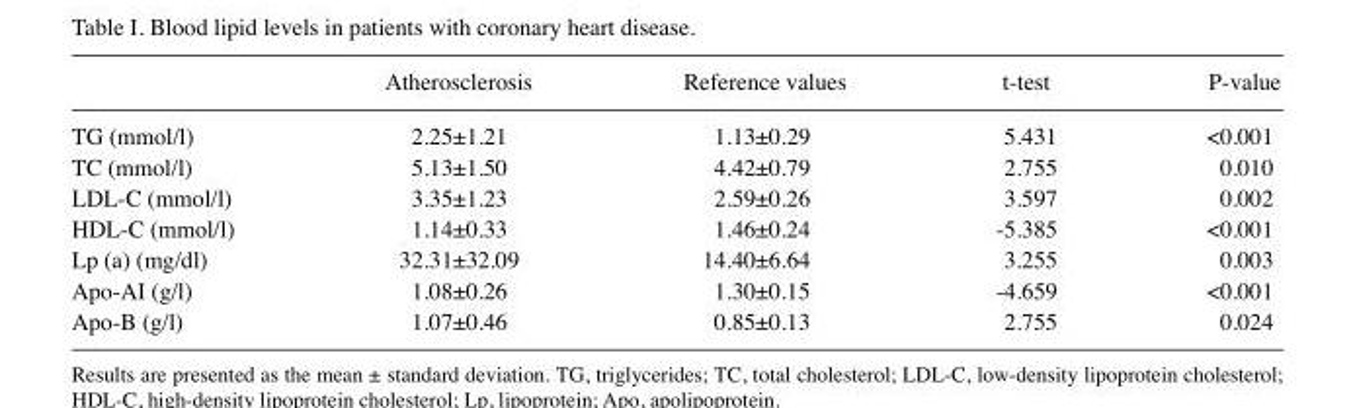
<table><thead><tr><td></td><td>Atherosclerosis</td><td>Reference values</td><td>t-test</td><td>P-value</td></tr></thead><tbody><tr><td>TG (mmol/l)</td><td>2.25±1.21</td><td>1.13±0.29</td><td>5.431</td><td>&lt;0.001</td></tr><tr><td>TC (mmol/l)</td><td>5.13±1.50</td><td>4.42±0.79</td><td>2.755</td><td>0.010</td></tr><tr><td>LDL-C (mmol/l)</td><td>3.35±1.23</td><td>2.59±0.26</td><td>3.597</td><td>0.002</td></tr><tr><td>HDL-C (mmol/l)</td><td>1.14±0.33</td><td>1.46±0.24</td><td>-5.385</td><td>&lt;0.001</td></tr><tr><td>Lp (a) (mg/dl)</td><td>32.31±32.09</td><td>14.40±6.64</td><td>3.255</td><td>0.003</td></tr><tr><td>Apo-AI (g/l)</td><td>1.08±0.26</td><td>1.30±0.15</td><td>-4.659</td><td>&lt;0.001</td></tr><tr><td>Apo-B (g/l)</td><td>1.07±0.46</td><td>0.85±0.13</td><td>2.755</td><td>0.024</td></tr></tbody></table>